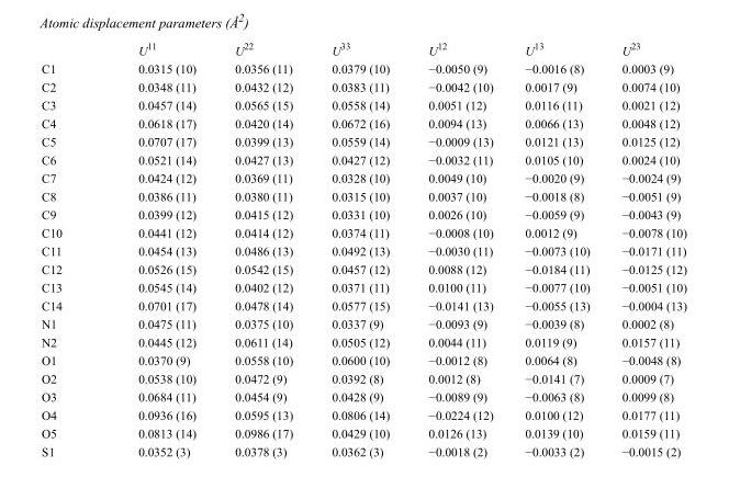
<table><thead><tr><td></td><td>U<sup>11</sup></td><td>U<sup>22</sup></td><td>U<sup>33</sup></td><td>U<sup>12</sup></td><td>U<sup>13</sup></td><td>U<sup>23</sup></td></tr></thead><tbody><tr><td>C1</td><td>0.0315 (10)</td><td>0.0356 (11)</td><td>0.0379 (10)</td><td>−0.0050 (9)</td><td>−0.0016 (8)</td><td>0.0003 (9)</td></tr><tr><td>C2</td><td>0.0348 (11)</td><td>0.0432 (12)</td><td>0.0383 (11)</td><td>−0.0042 (10)</td><td>0.0017 (9)</td><td>0.0074 (10)</td></tr><tr><td>C3</td><td>0.0457 (14)</td><td>0.0565 (15)</td><td>0.0558 (14)</td><td>0.0051 (12)</td><td>0.0116 (11)</td><td>0.0021 (12)</td></tr><tr><td>C4</td><td>0.0618 (17)</td><td>0.0420 (14)</td><td>0.0672 (16)</td><td>0.0094 (13)</td><td>0.0066 (13)</td><td>0.0048 (12)</td></tr><tr><td>C5</td><td>0.0707 (17)</td><td>0.0399 (13)</td><td>0.0559 (14)</td><td>−0.0009 (13)</td><td>0.0121 (13)</td><td>0.0125 (12)</td></tr><tr><td>C6</td><td>0.0521 (14)</td><td>0.0427 (13)</td><td>0.0427 (12)</td><td>−0.0032 (11)</td><td>0.0105 (10)</td><td>0.0024 (10)</td></tr><tr><td>C7</td><td>0.0424 (12)</td><td>0.0369 (11)</td><td>0.0328 (10)</td><td>0.0049 (10)</td><td>−0.0020 (9)</td><td>−0.0024 (9)</td></tr><tr><td>C8</td><td>0.0386 (11)</td><td>0.0380 (11)</td><td>0.0315 (10)</td><td>0.0037 (10)</td><td>−0.0018 (8)</td><td>−0.0051 (9)</td></tr><tr><td>C9</td><td>0.0399 (12)</td><td>0.0415 (12)</td><td>0.0331 (10)</td><td>0.0026 (10)</td><td>−0.0059 (9)</td><td>−0.0043 (9)</td></tr><tr><td>C10</td><td>0.0441 (12)</td><td>0.0414 (12)</td><td>0.0374 (11)</td><td>−0.0008 (10)</td><td>0.0012 (9)</td><td>−0.0078 (10)</td></tr><tr><td>C11</td><td>0.0454 (13)</td><td>0.0486 (13)</td><td>0.0492 (13)</td><td>−0.0030 (11)</td><td>−0.0073 (10)</td><td>−0.0171 (11)</td></tr><tr><td>C12</td><td>0.0526 (15)</td><td>0.0542 (15)</td><td>0.0457 (12)</td><td>0.0088 (12)</td><td>−0.0184 (11)</td><td>−0.0125 (12)</td></tr><tr><td>C13</td><td>0.0545 (14)</td><td>0.0402 (12)</td><td>0.0371 (11)</td><td>0.0100 (11)</td><td>−0.0077 (10)</td><td>−0.0051 (10)</td></tr><tr><td>C14</td><td>0.0701 (17)</td><td>0.0478 (14)</td><td>0.0577 (15)</td><td>−0.0141 (13)</td><td>−0.0055 (13)</td><td>−0.0004 (13)</td></tr><tr><td>N1</td><td>0.0475 (11)</td><td>0.0375 (10)</td><td>0.0337 (9)</td><td>−0.0093 (9)</td><td>−0.0039 (8)</td><td>0.0002 (8)</td></tr><tr><td>N2</td><td>0.0445 (12)</td><td>0.0611 (14)</td><td>0.0505 (12)</td><td>0.0044 (11)</td><td>0.0119 (9)</td><td>0.0157 (11)</td></tr><tr><td>O1</td><td>0.0370 (9)</td><td>0.0558 (10)</td><td>0.0600 (10)</td><td>−0.0012 (8)</td><td>0.0064 (8)</td><td>−0.0048 (8)</td></tr><tr><td>O2</td><td>0.0538 (10)</td><td>0.0472 (9)</td><td>0.0392 (8)</td><td>0.0012 (8)</td><td>−0.0141 (7)</td><td>0.0009 (7)</td></tr><tr><td>O3</td><td>0.0684 (11)</td><td>0.0454 (9)</td><td>0.0428 (9)</td><td>−0.0089 (9)</td><td>−0.0063 (8)</td><td>0.0099 (8)</td></tr><tr><td>O4</td><td>0.0936 (16)</td><td>0.0595 (13)</td><td>0.0806 (14)</td><td>−0.0224 (12)</td><td>0.0100 (12)</td><td>0.0177 (11)</td></tr><tr><td>O5</td><td>0.0813 (14)</td><td>0.0986 (17)</td><td>0.0429 (10)</td><td>0.0126 (13)</td><td>0.0139 (10)</td><td>0.0159 (11)</td></tr><tr><td>S1</td><td>0.0352 (3)</td><td>0.0378 (3)</td><td>0.0362 (3)</td><td>−0.0018 (2)</td><td>−0.0033 (2)</td><td>−0.0015 (2)</td></tr></tbody></table>